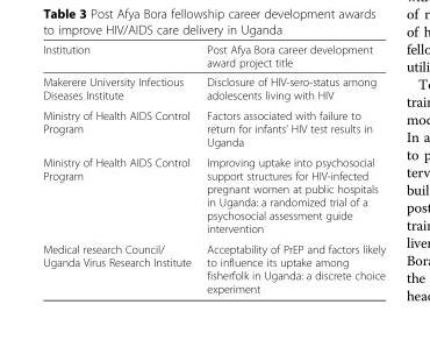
<table><thead><tr><td>Institution</td><td>Post Afya Bora career development award project title</td></tr></thead><tbody><tr><td>Makerere University Infectious Diseases Institute</td><td>Disclosure of HIV-sero-status among adolescents living with HIV</td></tr><tr><td>Ministry of Health AIDS Control Program</td><td>Factors associated with failure to return for infants’ HIV test results in Uganda</td></tr><tr><td>Ministry of Health AIDS Control Program</td><td>Improving uptake into psychosocial support structures for HIV-infected pregnant women at public hospitals in Uganda: a randomized trial of a psychosocial assessment guide intervention</td></tr><tr><td>Medical research Council/ Uganda Virus Research Institute</td><td>Acceptability of PrEP and factors likely to influence its uptake among fisherfolk in Uganda: a discrete choice experiment</td></tr></tbody></table>